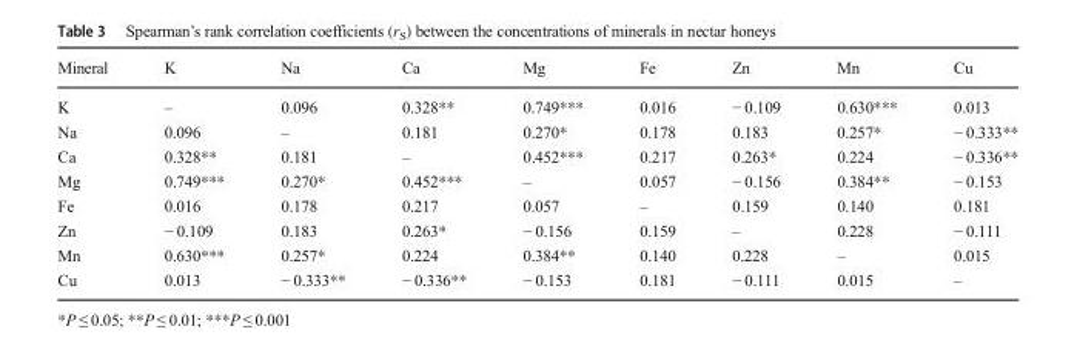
<table><thead><tr><td>Mineral</td><td>K</td><td>Na</td><td>Ca</td><td>Mg</td><td>Fe</td><td>Zn</td><td>Mn</td><td>Cu</td></tr></thead><tbody><tr><td>K</td><td>–</td><td>0.096</td><td>0.328**</td><td>0.749***</td><td>0.016</td><td>− 0.109</td><td>0.630***</td><td>0.013</td></tr><tr><td>Na</td><td>0.096</td><td>–</td><td>0.181</td><td>0.270*</td><td>0.178</td><td>0.183</td><td>0.257*</td><td>− 0.333**</td></tr><tr><td>Ca</td><td>0.328**</td><td>0.181</td><td>–</td><td>0.452***</td><td>0.217</td><td>0.263*</td><td>0.224</td><td>− 0.336**</td></tr><tr><td>Mg</td><td>0.749***</td><td>0.270*</td><td>0.452***</td><td>–</td><td>0.057</td><td>− 0.156</td><td>0.384**</td><td>− 0.153</td></tr><tr><td>Fe</td><td>0.016</td><td>0.178</td><td>0.217</td><td>0.057</td><td>–</td><td>0.159</td><td>0.140</td><td>0.181</td></tr><tr><td>Zn</td><td>− 0.109</td><td>0.183</td><td>0.263*</td><td>− 0.156</td><td>0.159</td><td>–</td><td>0.228</td><td>− 0.111</td></tr><tr><td>Mn</td><td>0.630***</td><td>0.257*</td><td>0.224</td><td>0.384**</td><td>0.140</td><td>0.228</td><td>–</td><td>0.015</td></tr><tr><td>Cu</td><td>0.013</td><td>− 0.333**</td><td>− 0.336**</td><td>− 0.153</td><td>0.181</td><td>− 0.111</td><td>0.015</td><td>–</td></tr></tbody></table>